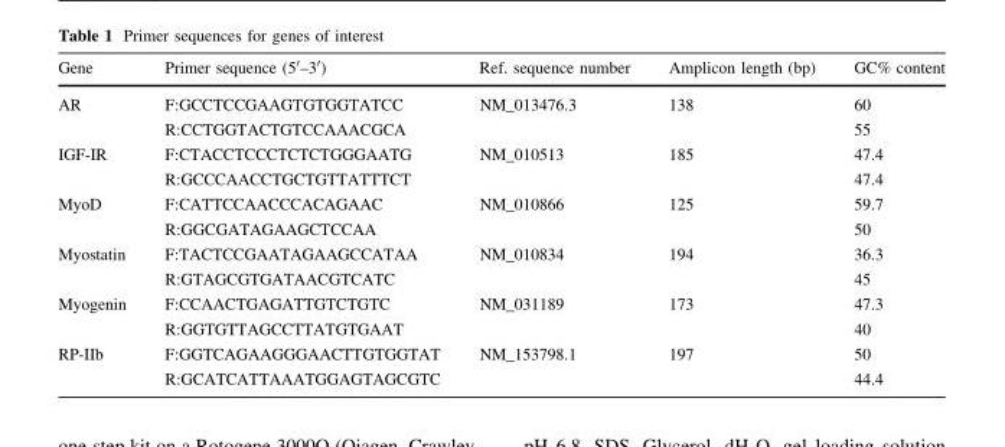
<table><thead><tr><td>Gene</td><td>Primer sequence (5′–3′)</td><td>Ref. sequence number</td><td>Amplicon length (bp)</td><td>GC% content</td></tr></thead><tbody><tr><td>AR</td><td>F:GCCTCCGAAGTGTGGTATCC R:CCTGGTACTGTCCAAACGCA</td><td>NM_013476.3</td><td>138</td><td>60 55</td></tr><tr><td>IGF-IR</td><td>F:CTACCTCCCTCTCTGGGAATG R:GCCCAACCTGCTGTTATTTCT</td><td>NM_010513</td><td>185</td><td>47.4 47.4</td></tr><tr><td>MyoD</td><td>F:CATTCCAACCCACAGAAC R:GGCGATAGAAGCTCCAA</td><td>NM_010866</td><td>125</td><td>59.7 50</td></tr><tr><td>Myostatin</td><td>F:TACTCCGAATAGAAGCCATAA R:GTAGCGTGATAACGTCATC</td><td>NM_010834</td><td>194</td><td>36.3 45</td></tr><tr><td>Myogenin</td><td>F:CCAACTGAGATTGTCTGTC R:GGTGTTAGCCTTATGTGAAT</td><td>NM_031189</td><td>173</td><td>47.3 40</td></tr><tr><td>RP-IIb</td><td>F:GGTCAGAAGGGAACTTGTGGTAT R:GCATCATTAAATGGAGTAGCGTC</td><td>NM_153798.1</td><td>197</td><td>50 44.4</td></tr></tbody></table>